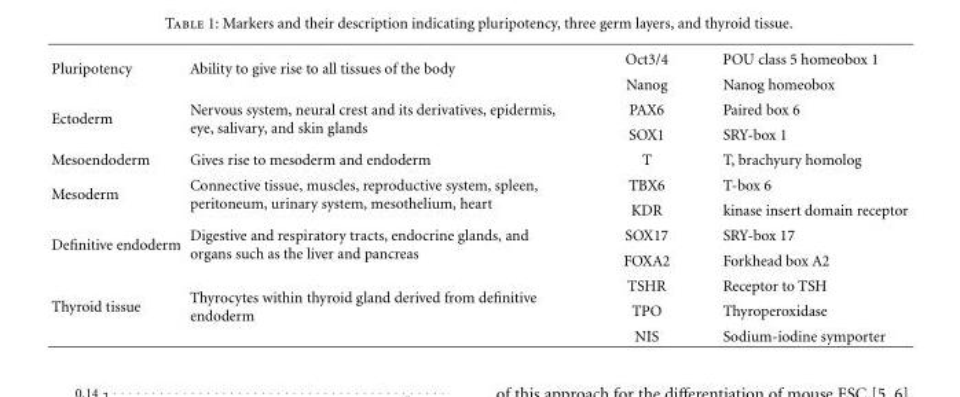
<table><tbody><tr><td rowspan="2">Pluripotency</td><td rowspan="2">Ability to give rise to all tissues of the body</td><td>Oct3/4</td><td>POU class 5 homeobox 1</td></tr><tr><td>Nanog</td><td>Nanog homeobox</td></tr><tr><td rowspan="2">Ectoderm</td><td rowspan="2">Nervous system, neural crest and its derivatives, epidermis, eye, salivary, and skin glands</td><td>PAX6</td><td>Paired box 6</td></tr><tr><td>SOX1</td><td>SRY-box 1</td></tr><tr><td>Mesoendoderm</td><td>Gives rise to mesoderm and endoderm</td><td>T</td><td>T, brachyury homolog</td></tr><tr><td rowspan="2">Mesoderm</td><td rowspan="2">Connective tissue, muscles, reproductive system, spleen, peritoneum, urinary system, mesothelium, heart</td><td>TBX6</td><td>T-box 6</td></tr><tr><td>KDR</td><td>kinase insert domain receptor</td></tr><tr><td rowspan="2">Definitive endoderm</td><td rowspan="2">Digestive and respiratory tracts, endocrine glands, and organs such as the liver and pancreas</td><td>SOX17</td><td>SRY-box 17</td></tr><tr><td>FOXA2</td><td>Forkhead box A2</td></tr><tr><td rowspan="3">Thyroid tissue</td><td rowspan="3">Thyrocytes within thyroid gland derived from definitive endoderm</td><td>TSHR</td><td>Receptor to TSH</td></tr><tr><td>TPO</td><td>Thyroperoxidase</td></tr><tr><td>NIS</td><td>Sodium-iodine symporter</td></tr></tbody></table>